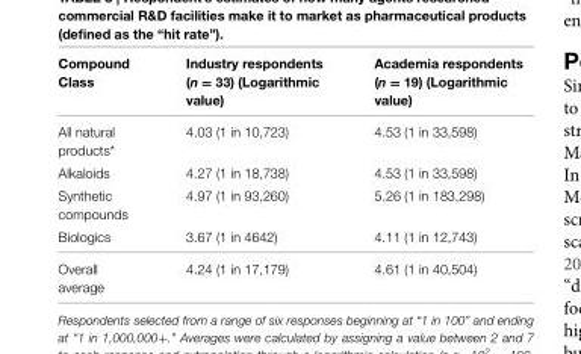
<table><thead><tr><td>Compound Class</td><td>Industry respondents (n = 33) (Logarithmic value)</td><td>Academia respondents (n = 19) (Logarithmic value)</td></tr></thead><tbody><tr><td>All natural products*</td><td>4.03 (1 in 10,723)</td><td>4.53 (1 in 33,598)</td></tr><tr><td>Alkaloids</td><td>4.27 (1 in 18,738)</td><td>4.53 (1 in 33,598)</td></tr><tr><td>Synthetic compounds</td><td>4.97 (1 in 93,260)</td><td>5.26 (1 in 183,298)</td></tr><tr><td>Biologics</td><td>3.67 (1 in 4642)</td><td>4.11 (1 in 12,743)</td></tr><tr><td>Overall average</td><td>4.24 (1 in 17,179)</td><td>4.61 (1 in 40,504)</td></tr></tbody></table>